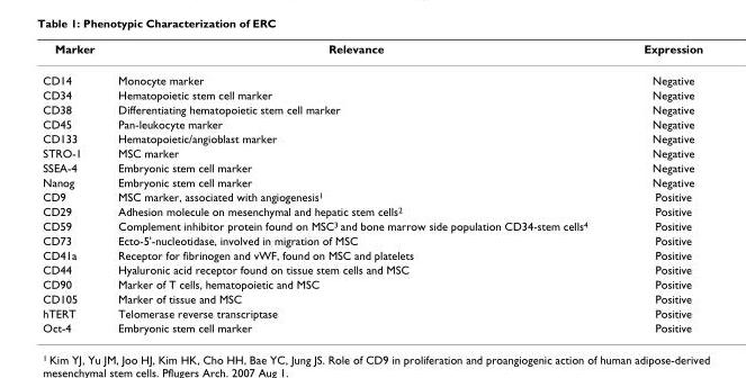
<table><thead><tr><td>Marker</td><td>Relevance</td><td>Expression</td></tr></thead><tbody><tr><td>CD14</td><td>Monocyte marker</td><td>Negative</td></tr><tr><td>CD34</td><td>Hematopoietic stem cell marker</td><td>Negative</td></tr><tr><td>CD38</td><td>Differentiating hematopoietic stem cell marker</td><td>Negative</td></tr><tr><td>CD45</td><td>Pan-leukocyte marker</td><td>Negative</td></tr><tr><td>CD133</td><td>Hematopoietic/angioblast marker</td><td>Negative</td></tr><tr><td>STRO-1</td><td>MSC marker</td><td>Negative</td></tr><tr><td>SSEA-4</td><td>Embryonic stem cell marker</td><td>Negative</td></tr><tr><td>Nanog</td><td>Embryonic stem cell marker</td><td>Negative</td></tr><tr><td>CD9</td><td>MSC marker, associated with angiogenesis<sup>1</sup></td><td>Positive</td></tr><tr><td>CD29</td><td>Adhesion molecule on mesenchymal and hepatic stem cells<sup>2</sup></td><td>Positive</td></tr><tr><td>CD59</td><td>Complement inhibitor protein found on MSC<sup>3</sup> and bone marrow side population CD34-stem cells<sup>4</sup></td><td>Positive</td></tr><tr><td>CD73</td><td>Ecto-5&#x27;-nucleotidase, involved in migration of MSC</td><td>Positive</td></tr><tr><td>CD41a</td><td>Receptor for fibrinogen and vWF, found on MSC and platelets</td><td>Positive</td></tr><tr><td>CD44</td><td>Hyaluronic acid receptor found on tissue stem cells and MSC</td><td>Positive</td></tr><tr><td>CD90</td><td>Marker of T cells, hematopoietic and MSC</td><td>Positive</td></tr><tr><td>CD105</td><td>Marker of tissue and MSC</td><td>Positive</td></tr><tr><td>hTERT</td><td>Telomerase reverse transcriptase</td><td>Positive</td></tr><tr><td>Oct-4</td><td>Embryonic stem cell marker</td><td>Positive</td></tr></tbody></table>